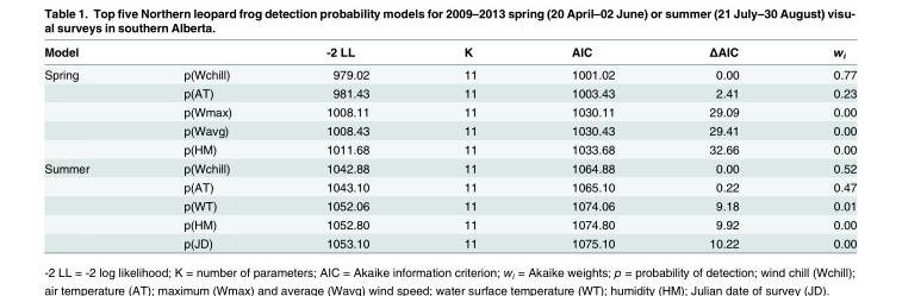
<table><thead><tr><td>Model</td><td></td><td>-2 LL</td><td>K</td><td>AIC</td><td>ΔAIC</td><td>w<sub>i</sub></td></tr></thead><tbody><tr><td rowspan="5">Spring</td><td>p(Wchill)</td><td>979.02</td><td>11</td><td>1001.02</td><td>0.00</td><td>0.77</td></tr><tr><td>p(AT)</td><td>981.43</td><td>11</td><td>1003.43</td><td>2.41</td><td>0.23</td></tr><tr><td>p(Wmax)</td><td>1008.11</td><td>11</td><td>1030.11</td><td>29.09</td><td>0.00</td></tr><tr><td>p(Wavg)</td><td>1008.43</td><td>11</td><td>1030.43</td><td>29.41</td><td>0.00</td></tr><tr><td>p(HM)</td><td>1011.68</td><td>11</td><td>1033.68</td><td>32.66</td><td>0.00</td></tr><tr><td rowspan="5">Summer</td><td>p(Wchill)</td><td>1042.88</td><td>11</td><td>1064.88</td><td>0.00</td><td>0.52</td></tr><tr><td>p(AT)</td><td>1043.10</td><td>11</td><td>1065.10</td><td>0.22</td><td>0.47</td></tr><tr><td>p(WT)</td><td>1052.06</td><td>11</td><td>1074.06</td><td>9.18</td><td>0.01</td></tr><tr><td>p(HM)</td><td>1052.80</td><td>11</td><td>1074.80</td><td>9.92</td><td>0.00</td></tr><tr><td>p(JD)</td><td>1053.10</td><td>11</td><td>1075.10</td><td>10.22</td><td>0.00</td></tr></tbody></table>